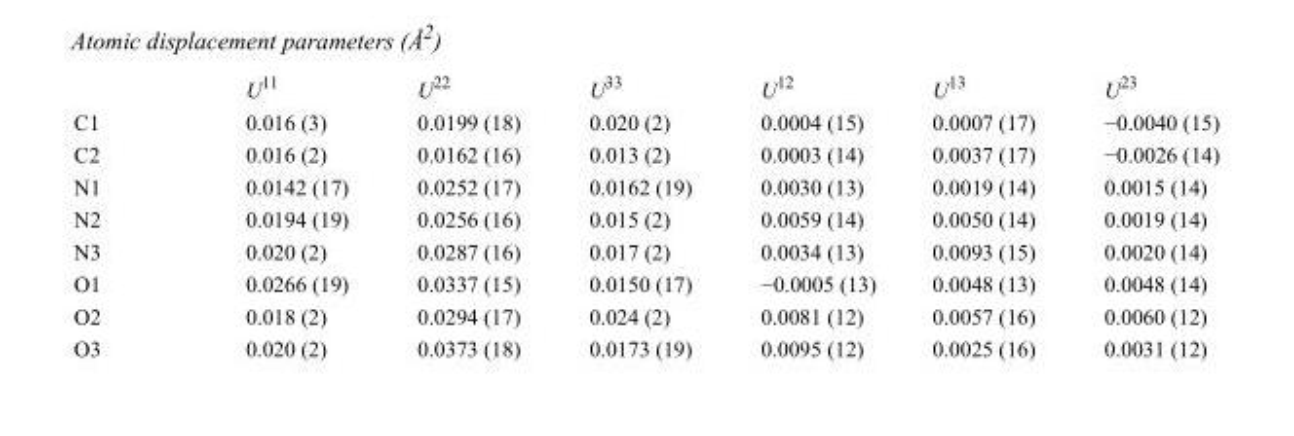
<table><thead><tr><td></td><td>U<sup>11</sup></td><td>U<sup>22</sup></td><td>U<sup>33</sup></td><td>U<sup>12</sup></td><td>U<sup>13</sup></td><td>U<sup>23</sup></td></tr></thead><tbody><tr><td>C1</td><td>0.016 (3)</td><td>0.0199 (18)</td><td>0.020 (2)</td><td>0.0004 (15)</td><td>0.0007 (17)</td><td>−0.0040 (15)</td></tr><tr><td>C2</td><td>0.016 (2)</td><td>0.0162 (16)</td><td>0.013 (2)</td><td>0.0003 (14)</td><td>0.0037 (17)</td><td>−0.0026 (14)</td></tr><tr><td>N1</td><td>0.0142 (17)</td><td>0.0252 (17)</td><td>0.0162 (19)</td><td>0.0030 (13)</td><td>0.0019 (14)</td><td>0.0015 (14)</td></tr><tr><td>N2</td><td>0.0194 (19)</td><td>0.0256 (16)</td><td>0.015 (2)</td><td>0.0059 (14)</td><td>0.0050 (14)</td><td>0.0019 (14)</td></tr><tr><td>N3</td><td>0.020 (2)</td><td>0.0287 (16)</td><td>0.017 (2)</td><td>0.0034 (13)</td><td>0.0093 (15)</td><td>0.0020 (14)</td></tr><tr><td>O1</td><td>0.0266 (19)</td><td>0.0337 (15)</td><td>0.0150 (17)</td><td>−0.0005 (13)</td><td>0.0048 (13)</td><td>0.0048 (14)</td></tr><tr><td>O2</td><td>0.018 (2)</td><td>0.0294 (17)</td><td>0.024 (2)</td><td>0.0081 (12)</td><td>0.0057 (16)</td><td>0.0060 (12)</td></tr><tr><td>O3</td><td>0.020 (2)</td><td>0.0373 (18)</td><td>0.0173 (19)</td><td>0.0095 (12)</td><td>0.0025 (16)</td><td>0.0031 (12)</td></tr></tbody></table>